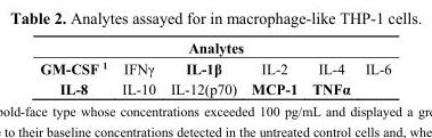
<table><thead><tr><td colspan="6">Analytes</td></tr><tr><td>GM-CSF <sup>1</sup></td><td>IFNγ</td><td>IL-1β</td><td>IL-2</td><td>IL-4</td><td>IL-6</td></tr></thead><tbody><tr><td>IL-8</td><td>IL-10</td><td>IL-12(p70)</td><td>MCP-1</td><td>TNFα</td><td></td></tr></tbody></table>